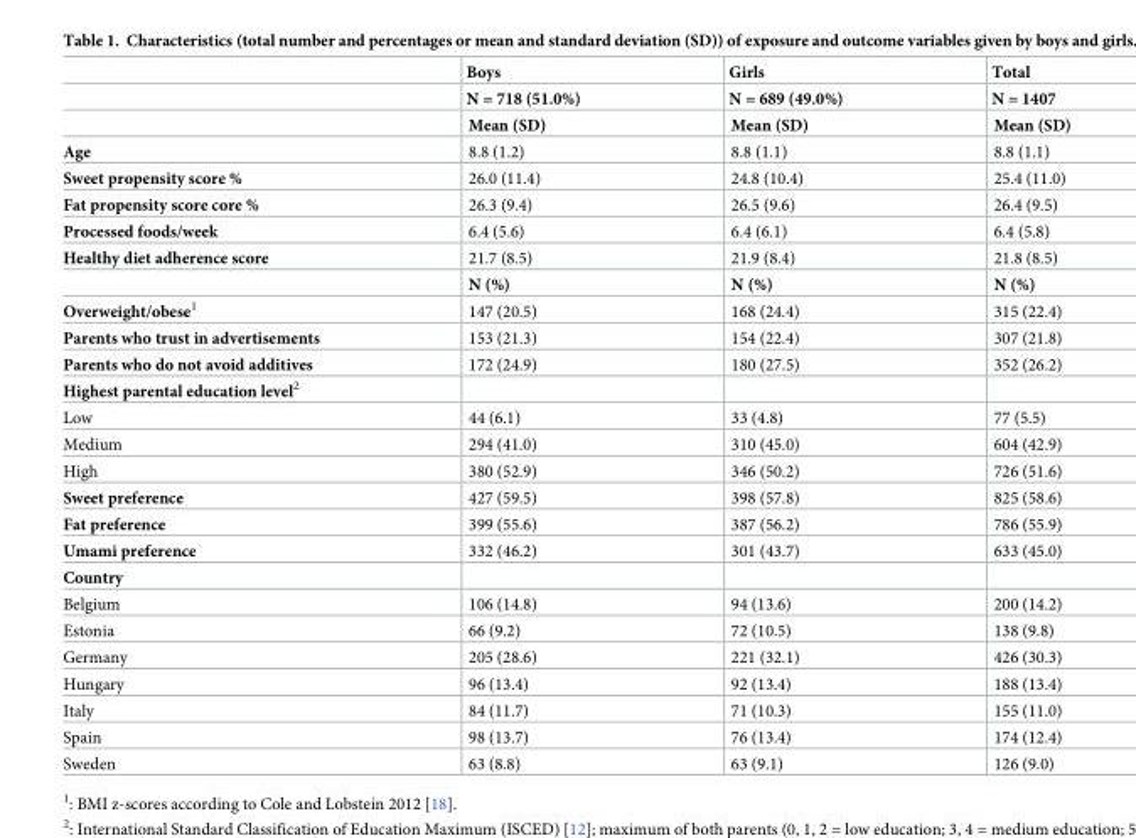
<table><thead><tr><td rowspan="2"></td><td rowspan="2">Boys N = 718 (51.0%)</td><td rowspan="2">Girls N = 689 (49.0%)</td><td rowspan="2">Total N = 1407</td></tr><tr></tr></thead><tbody><tr><td></td><td>Mean (SD)</td><td>Mean (SD)</td><td>Mean (SD)</td></tr><tr><td>Age</td><td>8.8 (1.2)</td><td>8.8 (1.1)</td><td>8.8 (1.1)</td></tr><tr><td>Sweet propensity score %</td><td>26.0 (11.4)</td><td>24.8 (10.4)</td><td>25.4 (11.0)</td></tr><tr><td>Fat propensity score core %</td><td>26.3 (9.4)</td><td>26.5 (9.6)</td><td>26.4 (9.5)</td></tr><tr><td>Processed foods/week</td><td>6.4 (5.6)</td><td>6.4 (6.1)</td><td>6.4 (5.8)</td></tr><tr><td rowspan="2">Healthy diet adherence score</td><td>21.7 (8.5)</td><td>21.9 (8.4)</td><td>21.8 (8.5)</td></tr><tr><td>N (%)</td><td>N (%)</td><td>N (%)</td></tr><tr><td>Overweight/obese<sup>1</sup></td><td>147 (20.5)</td><td>168 (24.4)</td><td>315 (22.4)</td></tr><tr><td>Parents who trust in advertisements</td><td>153 (21.3)</td><td>154 (22.4)</td><td>307 (21.8)</td></tr><tr><td>Parents who do not avoid additives</td><td>172 (24.9)</td><td>180 (27.5)</td><td>352 (26.2)</td></tr><tr><td colspan="4">Highest parental education level<sup>2</sup></td></tr><tr><td>Low</td><td>44 (6.1)</td><td>33 (4.8)</td><td>77 (5.5)</td></tr><tr><td>Medium</td><td>294 (41.0)</td><td>310 (45.0)</td><td>604 (42.9)</td></tr><tr><td>High</td><td>380 (52.9)</td><td>346 (50.2)</td><td>726 (51.6)</td></tr><tr><td>Sweet preference</td><td>427 (59.5)</td><td>398 (57.8)</td><td>825 (58.6)</td></tr><tr><td>Fat preference</td><td>399 (55.6)</td><td>387 (56.2)</td><td>786 (55.9)</td></tr><tr><td>Umami preference</td><td>332 (46.2)</td><td>301 (43.7)</td><td>633 (45.0)</td></tr><tr><td colspan="4">Country</td></tr><tr><td>Belgium</td><td>106 (14.8)</td><td>94 (13.6)</td><td>200 (14.2)</td></tr><tr><td>Estonia</td><td>66 (9.2)</td><td>72 (10.5)</td><td>138 (9.8)</td></tr><tr><td>Germany</td><td>205 (28.6)</td><td>221 (32.1)</td><td>426 (30.3)</td></tr><tr><td>Hungary</td><td>96 (13.4)</td><td>92 (13.4)</td><td>188 (13.4)</td></tr><tr><td>Italy</td><td>84 (11.7)</td><td>71 (10.3)</td><td>155 (11.0)</td></tr><tr><td>Spain</td><td>98 (13.7)</td><td>76 (13.4)</td><td>174 (12.4)</td></tr><tr><td>Sweden</td><td>63 (8.8)</td><td>63 (9.1)</td><td>126 (9.0)</td></tr></tbody></table>